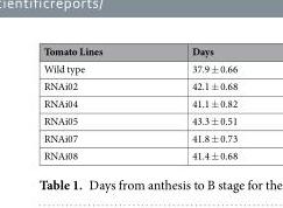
<table><thead><tr><td>Tomato Lines</td><td>Days</td></tr></thead><tbody><tr><td>Wild type</td><td>37.9 ± 0.66</td></tr><tr><td>RNAi02</td><td>42.1 ± 0.68</td></tr><tr><td>RNAi04</td><td>41.1 ± 0.82</td></tr><tr><td>RNAi05</td><td>43.3 ± 0.51</td></tr><tr><td>RNAi07</td><td>41.8 ± 0.73</td></tr><tr><td>RNAi08</td><td>41.4 ± 0.68</td></tr></tbody></table>